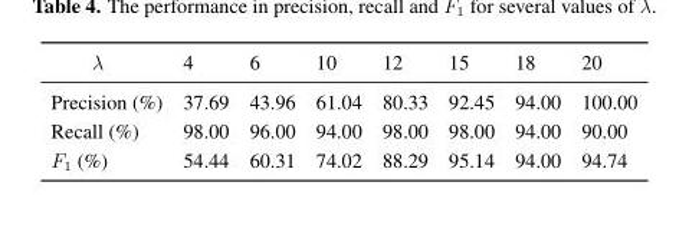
<table><thead><tr><td>λ</td><td>4</td><td>6</td><td>10</td><td>12</td><td>15</td><td>18</td><td>20</td></tr></thead><tbody><tr><td>Precision (%)</td><td>37.69</td><td>43.96</td><td>61.04</td><td>80.33</td><td>92.45</td><td>94.00</td><td>100.00</td></tr><tr><td>Recall (%)</td><td>98.00</td><td>96.00</td><td>94.00</td><td>98.00</td><td>98.00</td><td>94.00</td><td>90.00</td></tr><tr><td>F<sub>1</sub> (%)</td><td>54.44</td><td>60.31</td><td>74.02</td><td>88.29</td><td>95.14</td><td>94.00</td><td>94.74</td></tr></tbody></table>